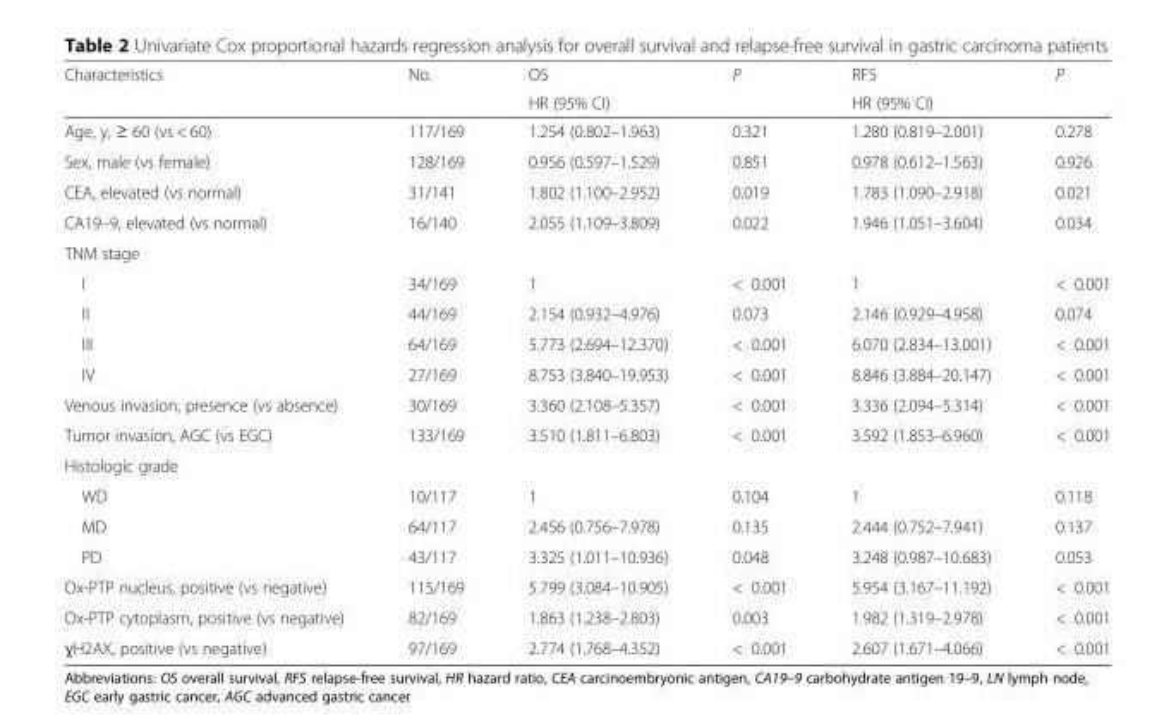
<table><thead><tr><td rowspan="2">Characteristics</td><td rowspan="2">No.</td><td rowspan="2">OS HR (95% CI)</td><td rowspan="2">P</td><td rowspan="2">RFS HR (95% CI)</td><td rowspan="2">P</td></tr><tr></tr></thead><tbody><tr><td>Age, y, ≥ 60 (vs &lt; 60)</td><td>117/169</td><td>1.254 (0.802–1.963)</td><td>0.321</td><td>1.280 (0.819–2.001)</td><td>0.278</td></tr><tr><td>Sex, male (vs female)</td><td>128/169</td><td>0.956 (0.597–1.529)</td><td>0.851</td><td>0.978 (0.612–1.563)</td><td>0.926</td></tr><tr><td>CEA, elevated (vs normal)</td><td>31/141</td><td>1.802 (1.100–2.952)</td><td>0.019</td><td>1.783 (1.090–2.918)</td><td>0.021</td></tr><tr><td>CA19–9, elevated (vs normal)</td><td>16/140</td><td>2.055 (1.109–3.809)</td><td>0.022</td><td>1.946 (1.051–3.604)</td><td>0.034</td></tr><tr><td colspan="6">TNM stage</td></tr><tr><td>I</td><td>34/169</td><td>1</td><td>&lt; 0.001</td><td>1</td><td>&lt; 0.001</td></tr><tr><td>II</td><td>44/169</td><td>2.154 (0.932–4.976)</td><td>0.073</td><td>2.146 (0.929–4.958)</td><td>0.074</td></tr><tr><td>III</td><td>64/169</td><td>5.773 (2.694–12.370)</td><td>&lt; 0.001</td><td>6.070 (2.834–13.001)</td><td>&lt; 0.001</td></tr><tr><td>IV</td><td>27/169</td><td>8.753 (3.840–19.953)</td><td>&lt; 0.001</td><td>8.846 (3.884–20.147)</td><td>&lt; 0.001</td></tr><tr><td>Venous invasion, presence (vs absence)</td><td>30/169</td><td>3.360 (2.108–5.357)</td><td>&lt; 0.001</td><td>3.336 (2.094–5.314)</td><td>&lt; 0.001</td></tr><tr><td>Tumor invasion, AGC (vs EGC)</td><td>133/169</td><td>3.510 (1.811–6.803)</td><td>&lt; 0.001</td><td>3.592 (1.853–6.960)</td><td>&lt; 0.001</td></tr><tr><td colspan="6">Histologic grade</td></tr><tr><td>WD</td><td>10/117</td><td>1</td><td>0.104</td><td>1</td><td>0.118</td></tr><tr><td>MD</td><td>64/117</td><td>2.456 (0.756–7.978)</td><td>0.135</td><td>2.444 (0.752–7.941)</td><td>0.137</td></tr><tr><td>PD</td><td>43/117</td><td>3.325 (1.011–10.936)</td><td>0.048</td><td>3.248 (0.987–10.683)</td><td>0.053</td></tr><tr><td>Ox-PTP nucleus, positive (vs negative)</td><td>115/169</td><td>5.799 (3.084–10.905)</td><td>&lt; 0.001</td><td>5.954 (3.167–11.192)</td><td>&lt; 0.001</td></tr><tr><td>Ox-PTP cytoplasm, positive (vs negative)</td><td>82/169</td><td>1.863 (1.238–2.803)</td><td>0.003</td><td>1.982 (1.319–2.978)</td><td>&lt; 0.001</td></tr><tr><td>ɣH2AX, positive (vs negative)</td><td>97/169</td><td>2.774 (1.768–4.352)</td><td>&lt; 0.001</td><td>2.607 (1.671–4.066)</td><td>&lt; 0.001</td></tr></tbody></table>